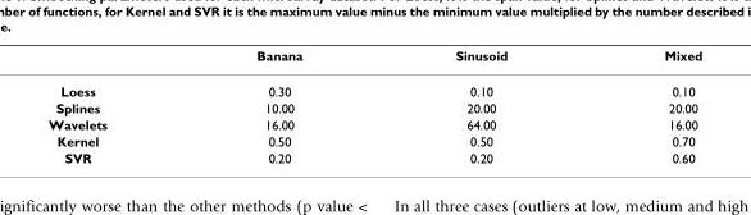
<table><thead><tr><td></td><td>Banana</td><td>Sinusoid</td><td>Mixed</td></tr></thead><tbody><tr><td>Loess</td><td>0.30</td><td>0.10</td><td>0.10</td></tr><tr><td>Splines</td><td>10.00</td><td>20.00</td><td>20.00</td></tr><tr><td>Wavelets</td><td>16.00</td><td>64.00</td><td>16.00</td></tr><tr><td>Kernel</td><td>0.50</td><td>0.50</td><td>0.70</td></tr><tr><td>SVR</td><td>0.20</td><td>0.20</td><td>0.60</td></tr></tbody></table>